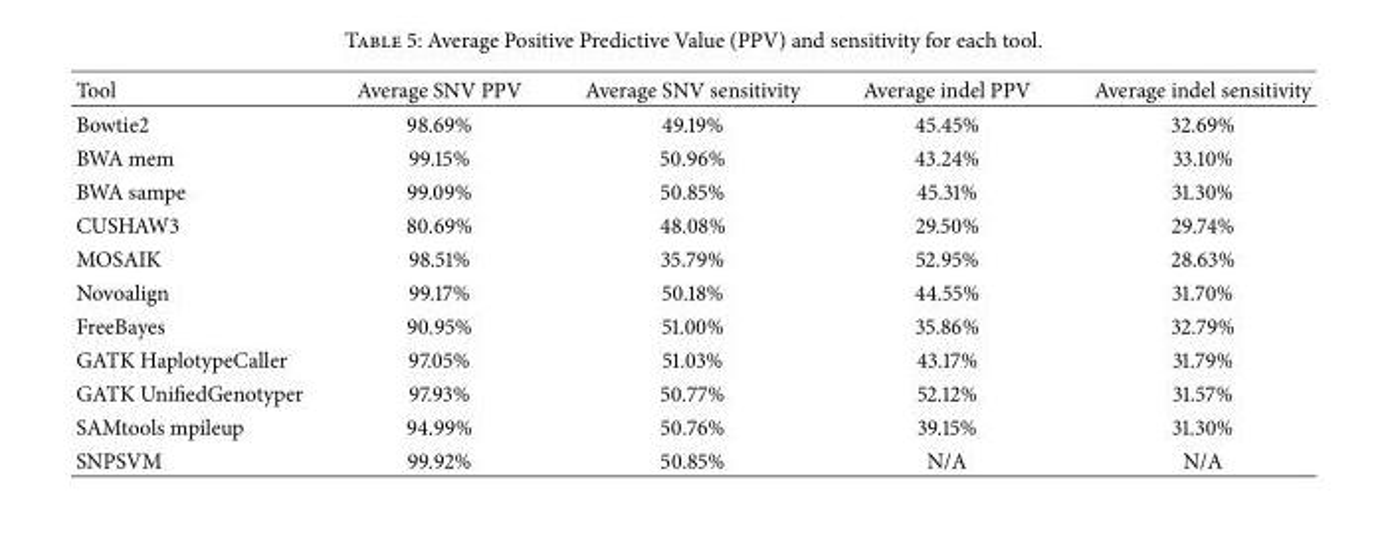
<table><thead><tr><td>Tool</td><td>Average SNV PPV</td><td>Average SNV sensitivity</td><td>Average indel PPV</td><td>Average indel sensitivity</td></tr></thead><tbody><tr><td>Bowtie2</td><td>98.69%</td><td>49.19%</td><td>45.45%</td><td>32.69%</td></tr><tr><td>BWA mem</td><td>99.15%</td><td>50.96%</td><td>43.24%</td><td>33.10%</td></tr><tr><td>BWA sampe</td><td>99.09%</td><td>50.85%</td><td>45.31%</td><td>31.30%</td></tr><tr><td>CUSHAW3</td><td>80.69%</td><td>48.08%</td><td>29.50%</td><td>29.74%</td></tr><tr><td>MOSAIK</td><td>98.51%</td><td>35.79%</td><td>52.95%</td><td>28.63%</td></tr><tr><td>Novoalign</td><td>99.17%</td><td>50.18%</td><td>44.55%</td><td>31.70%</td></tr><tr><td>FreeBayes</td><td>90.95%</td><td>51.00%</td><td>35.86%</td><td>32.79%</td></tr><tr><td>GATK HaplotypeCaller</td><td>97.05%</td><td>51.03%</td><td>43.17%</td><td>31.79%</td></tr><tr><td>GATK UnifiedGenotyper</td><td>97.93%</td><td>50.77%</td><td>52.12%</td><td>31.57%</td></tr><tr><td>SAMtools mpileup</td><td>94.99%</td><td>50.76%</td><td>39.15%</td><td>31.30%</td></tr><tr><td>SNPSVM</td><td>99.92%</td><td>50.85%</td><td>N/A</td><td>N/A</td></tr></tbody></table>